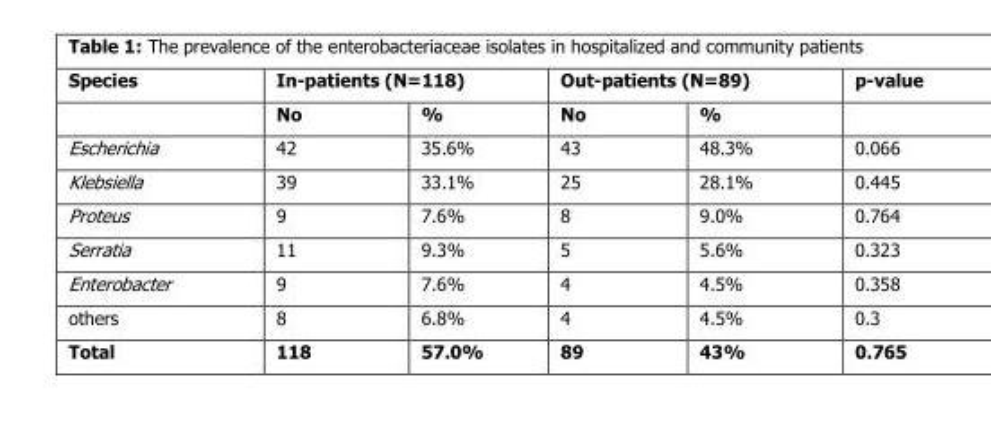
<table><thead><tr><td rowspan="2">Species</td><td colspan="2">In-patients (N=118)</td><td colspan="2">Out-patients (N=89)</td><td rowspan="2">p-value</td></tr><tr><td>No</td><td>%</td><td>No</td><td>%</td></tr></thead><tbody><tr><td>Escherichia</td><td>42</td><td>35.6%</td><td>43</td><td>48.3%</td><td>0.066</td></tr><tr><td>Klebsiella</td><td>39</td><td>33.1%</td><td>25</td><td>28.1%</td><td>0.445</td></tr><tr><td>Proteus</td><td>9</td><td>7.6%</td><td>8</td><td>9.0%</td><td>0.764</td></tr><tr><td>Serratia</td><td>11</td><td>9.3%</td><td>5</td><td>5.6%</td><td>0.323</td></tr><tr><td>Enterobacter</td><td>9</td><td>7.6%</td><td>4</td><td>4.5%</td><td>0.358</td></tr><tr><td>others</td><td>8</td><td>6.8%</td><td>4</td><td>4.5%</td><td>0.3</td></tr><tr><td>Total</td><td>118</td><td>57.0%</td><td>89</td><td>43%</td><td>0.765</td></tr></tbody></table>